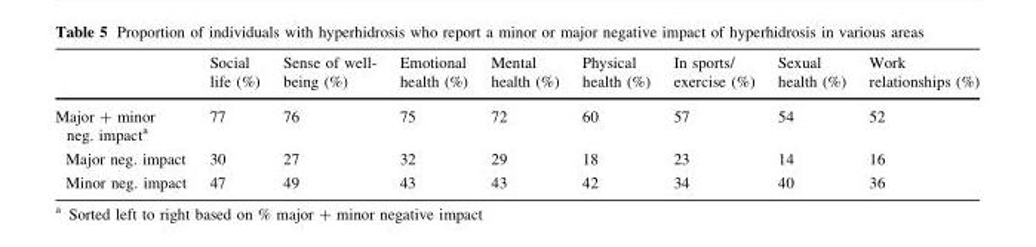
<table><thead><tr><td></td><td>Social life (%)</td><td>Sense of well- being (%)</td><td>Emotional health (%)</td><td>Mental health (%)</td><td>Physical health (%)</td><td>In sports/ exercise (%)</td><td>Sexual health (%)</td><td>Work relationships (%)</td></tr></thead><tbody><tr><td>Major + minor neg. impact<sup>a</sup></td><td>77</td><td>76</td><td>75</td><td>72</td><td>60</td><td>57</td><td>54</td><td>52</td></tr><tr><td>Major neg. impact</td><td>30</td><td>27</td><td>32</td><td>29</td><td>18</td><td>23</td><td>14</td><td>16</td></tr><tr><td>Minor neg. impact</td><td>47</td><td>49</td><td>43</td><td>43</td><td>42</td><td>34</td><td>40</td><td>36</td></tr></tbody></table>